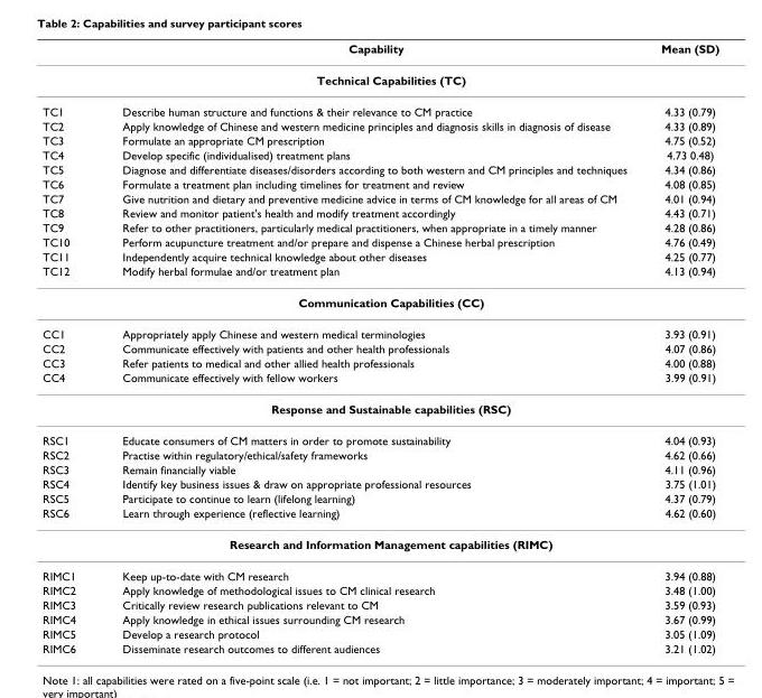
<table><thead><tr><td></td><td>Capability</td><td>Mean (SD)</td></tr></thead><tbody><tr><td colspan="3">Technical Capabilities (TC)</td></tr><tr><td>TC1</td><td>Describe human structure and functions &amp; their relevance to CM practice</td><td>4.33 (0.79)</td></tr><tr><td>TC2</td><td>Apply knowledge of Chinese and western medicine principles and diagnosis skills in diagnosis of disease</td><td>4.33 (0.89)</td></tr><tr><td>TC3</td><td>Formulate an appropriate CM prescription</td><td>4.75 (0.52)</td></tr><tr><td>TC4</td><td>Develop specific (individualised) treatment plans</td><td>4.73 0.48)</td></tr><tr><td>TC5</td><td>Diagnose and differentiate diseases/disorders according to both western and CM principles and techniques</td><td>4.34 (0.86)</td></tr><tr><td>TC6</td><td>Formulate a treatment plan including timelines for treatment and review</td><td>4.08 (0.85)</td></tr><tr><td>TC7</td><td>Give nutrition and dietary and preventive medicine advice in terms of CM knowledge for all areas of CM</td><td>4.01 (0.94)</td></tr><tr><td>TC8</td><td>Review and monitor patient&#x27;s health and modify treatment accordingly</td><td>4.43 (0.71)</td></tr><tr><td>TC9</td><td>Refer to other practitioners, particularly medical practitioners, when appropriate in a timely manner</td><td>4.28 (0.86)</td></tr><tr><td>TC10</td><td>Perform acupuncture treatment and/or prepare and dispense a Chinese herbal prescription</td><td>4.76 (0.49)</td></tr><tr><td>TC11</td><td>Independently acquire technical knowledge about other diseases</td><td>4.25 (0.77)</td></tr><tr><td>TC12</td><td>Modify herbal formulae and/or treatment plan</td><td>4.13 (0.94)</td></tr><tr><td colspan="3">Communication Capabilities (CC)</td></tr><tr><td>CC1</td><td>Appropriately apply Chinese and western medical terminologies</td><td>3.93 (0.91)</td></tr><tr><td>CC2</td><td>Communicate effectively with patients and other health professionals</td><td>4.07 (0.86)</td></tr><tr><td>CC3</td><td>Refer patients to medical and other allied health professionals</td><td>4.00 (0.88)</td></tr><tr><td>CC4</td><td>Communicate effectively with fellow workers</td><td>3.99 (0.91)</td></tr><tr><td colspan="3">Response and Sustainable capabilities (RSC)</td></tr><tr><td>RSC1</td><td>Educate consumers of CM matters in order to promote sustainability</td><td>4.04 (0.93)</td></tr><tr><td>RSC2</td><td>Practise within regulatory/ethical/safety frameworks</td><td>4.62 (0.66)</td></tr><tr><td>RSC3</td><td>Remain financially viable</td><td>4.11 (0.96)</td></tr><tr><td>RSC4</td><td>Identify key business issues &amp; draw on appropriate professional resources</td><td>3.75 (1.01)</td></tr><tr><td>RSC5</td><td>Participate to continue to learn (lifelong learning)</td><td>4.37 (0.79)</td></tr><tr><td>RSC6</td><td>Learn through experience (reflective learning)</td><td>4.62 (0.60)</td></tr><tr><td colspan="3">Research and Information Management capabilities (RIMC)</td></tr><tr><td>RIMC1</td><td>Keep up-to-date with CM research</td><td>3.94 (0.88)</td></tr><tr><td>RIMC2</td><td>Apply knowledge of methodological issues to CM clinical research</td><td>3.48 (1.00)</td></tr><tr><td>RIMC3</td><td>Critically review research publications relevant to CM</td><td>3.59 (0.93)</td></tr><tr><td>RIMC4</td><td>Apply knowledge in ethical issues surrounding CM research</td><td>3.67 (0.99)</td></tr><tr><td>RIMC5</td><td>Develop a research protocol</td><td>3.05 (1.09)</td></tr><tr><td>RIMC6</td><td>Disseminate research outcomes to different audiences</td><td>3.21 (1.02)</td></tr></tbody></table>